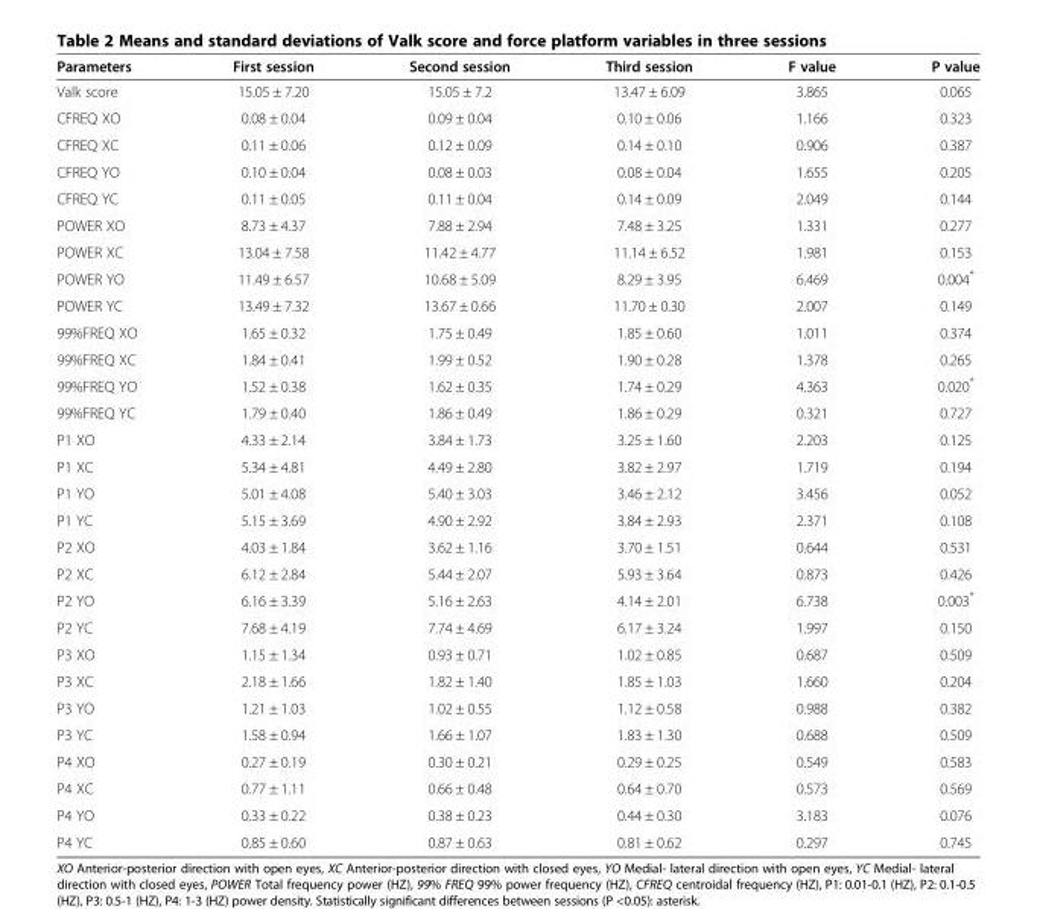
<table><thead><tr><td>Parameters</td><td>First session</td><td>Second session</td><td>Third session</td><td>F value</td><td>P value</td></tr></thead><tbody><tr><td>Valk score</td><td>15.05 ± 7.20</td><td>15.05 ± 7.2</td><td>13.47 ± 6.09</td><td>3.865</td><td>0.065</td></tr><tr><td>CFREQ XO</td><td>0.08 ± 0.04</td><td>0.09 ± 0.04</td><td>0.10 ± 0.06</td><td>1.166</td><td>0.323</td></tr><tr><td>CFREQ XC</td><td>0.11 ± 0.06</td><td>0.12 ± 0.09</td><td>0.14 ± 0.10</td><td>0.906</td><td>0.387</td></tr><tr><td>CFREQ YO</td><td>0.10 ± 0.04</td><td>0.08 ± 0.03</td><td>0.08 ± 0.04</td><td>1.655</td><td>0.205</td></tr><tr><td>CFREQ YC</td><td>0.11 ± 0.05</td><td>0.11 ± 0.04</td><td>0.14 ± 0.09</td><td>2.049</td><td>0.144</td></tr><tr><td>POWER XO</td><td>8.73 ± 4.37</td><td>7.88 ± 2.94</td><td>7.48 ± 3.25</td><td>1.331</td><td>0.277</td></tr><tr><td>POWER XC</td><td>13.04 ± 7.58</td><td>11.42 ± 4.77</td><td>11.14 ± 6.52</td><td>1.981</td><td>0.153</td></tr><tr><td>POWER YO</td><td>11.49 ± 6.57</td><td>10.68 ± 5.09</td><td>8.29 ± 3.95</td><td>6.469</td><td>0.004*</td></tr><tr><td>POWER YC</td><td>13.49 ± 7.32</td><td>13.67 ± 0.66</td><td>11.70 ± 0.30</td><td>2.007</td><td>0.149</td></tr><tr><td>99%FREQ XO</td><td>1.65 ± 0.32</td><td>1.75 ± 0.49</td><td>1.85 ± 0.60</td><td>1.011</td><td>0.374</td></tr><tr><td>99%FREQ XC</td><td>1.84 ± 0.41</td><td>1.99 ± 0.52</td><td>1.90 ± 0.28</td><td>1.378</td><td>0.265</td></tr><tr><td>99%FREQ YO</td><td>1.52 ± 0.38</td><td>1.62 ± 0.35</td><td>1.74 ± 0.29</td><td>4.363</td><td>0.020*</td></tr><tr><td>99%FREQ YC</td><td>1.79 ± 0.40</td><td>1.86 ± 0.49</td><td>1.86 ± 0.29</td><td>0.321</td><td>0.727</td></tr><tr><td>P1 XO</td><td>4.33 ± 2.14</td><td>3.84 ± 1.73</td><td>3.25 ± 1.60</td><td>2.203</td><td>0.125</td></tr><tr><td>P1 XC</td><td>5.34 ± 4.81</td><td>4.49 ± 2.80</td><td>3.82 ± 2.97</td><td>1.719</td><td>0.194</td></tr><tr><td>P1 YO</td><td>5.01 ± 4.08</td><td>5.40 ± 3.03</td><td>3.46 ± 2.12</td><td>3.456</td><td>0.052</td></tr><tr><td>P1 YC</td><td>5.15 ± 3.69</td><td>4.90 ± 2.92</td><td>3.84 ± 2.93</td><td>2.371</td><td>0.108</td></tr><tr><td>P2 XO</td><td>4.03 ± 1.84</td><td>3.62 ± 1.16</td><td>3.70 ± 1.51</td><td>0.644</td><td>0.531</td></tr><tr><td>P2 XC</td><td>6.12 ± 2.84</td><td>5.44 ± 2.07</td><td>5.93 ± 3.64</td><td>0.873</td><td>0.426</td></tr><tr><td>P2 YO</td><td>6.16 ± 3.39</td><td>5.16 ± 2.63</td><td>4.14 ± 2.01</td><td>6.738</td><td>0.003*</td></tr><tr><td>P2 YC</td><td>7.68 ± 4.19</td><td>7.74 ± 4.69</td><td>6.17 ± 3.24</td><td>1.997</td><td>0.150</td></tr><tr><td>P3 XO</td><td>1.15 ± 1.34</td><td>0.93 ± 0.71</td><td>1.02 ± 0.85</td><td>0.687</td><td>0.509</td></tr><tr><td>P3 XC</td><td>2.18 ± 1.66</td><td>1.82 ± 1.40</td><td>1.85 ± 1.03</td><td>1.660</td><td>0.204</td></tr><tr><td>P3 YO</td><td>1.21 ± 1.03</td><td>1.02 ± 0.55</td><td>1.12 ± 0.58</td><td>0.988</td><td>0.382</td></tr><tr><td>P3 YC</td><td>1.58 ± 0.94</td><td>1.66 ± 1.07</td><td>1.83 ± 1.30</td><td>0.688</td><td>0.509</td></tr><tr><td>P4 XO</td><td>0.27 ± 0.19</td><td>0.30 ± 0.21</td><td>0.29 ± 0.25</td><td>0.549</td><td>0.583</td></tr><tr><td>P4 XC</td><td>0.77 ± 1.11</td><td>0.66 ± 0.48</td><td>0.64 ± 0.70</td><td>0.573</td><td>0.569</td></tr><tr><td>P4 YO</td><td>0.33 ± 0.22</td><td>0.38 ± 0.23</td><td>0.44 ± 0.30</td><td>3.183</td><td>0.076</td></tr><tr><td>P4 YC</td><td>0.85 ± 0.60</td><td>0.87 ± 0.63</td><td>0.81 ± 0.62</td><td>0.297</td><td>0.745</td></tr></tbody></table>